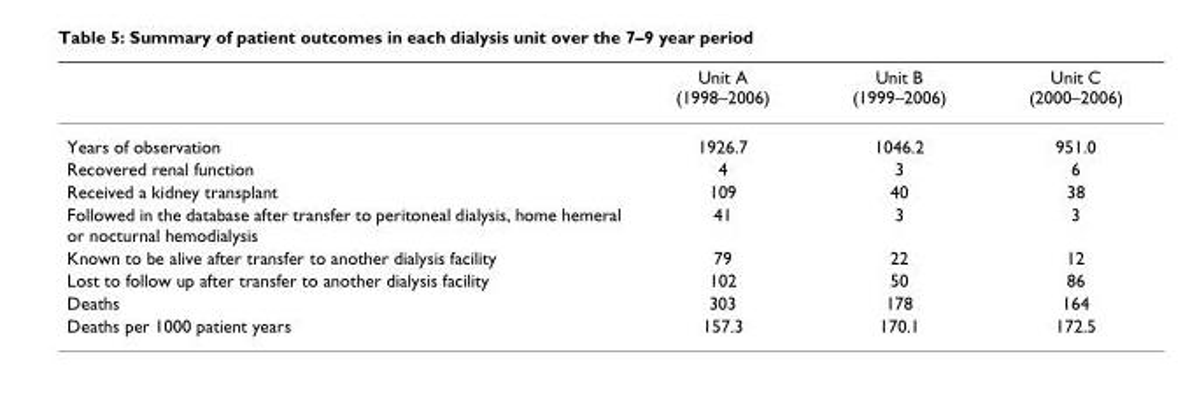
<table><thead><tr><td></td><td>Unit A (1998–2006)</td><td>Unit B (1999–2006)</td><td>Unit C (2000–2006)</td></tr></thead><tbody><tr><td>Years of observation</td><td>1926.7</td><td>1046.2</td><td>951.0</td></tr><tr><td>Recovered renal function</td><td>4</td><td>3</td><td>6</td></tr><tr><td>Received a kidney transplant</td><td>109</td><td>40</td><td>38</td></tr><tr><td>Followed in the database after transfer to peritoneal dialysis, home hemeral or nocturnal hemodialysis</td><td>41</td><td>3</td><td>3</td></tr><tr><td>Known to be alive after transfer to another dialysis facility</td><td>79</td><td>22</td><td>12</td></tr><tr><td>Lost to follow up after transfer to another dialysis facility</td><td>102</td><td>50</td><td>86</td></tr><tr><td>Deaths</td><td>303</td><td>178</td><td>164</td></tr><tr><td>Deaths per 1000 patient years</td><td>157.3</td><td>170.1</td><td>172.5</td></tr></tbody></table>